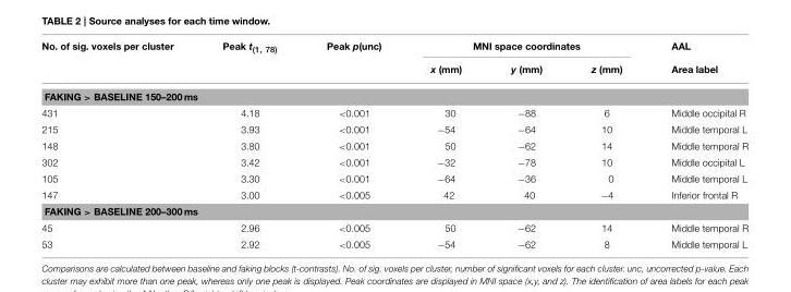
<table><thead><tr><td rowspan="2">No. of sig. voxels per cluster</td><td rowspan="2">Peak t<sub>(1, 78)</sub></td><td rowspan="2">Peak p(unc)</td><td colspan="3">MNI space coordinates</td><td rowspan="2">AAL Area label</td></tr><tr><td>x (mm)</td><td>y (mm)</td><td>z (mm)</td></tr></thead><tbody><tr><td colspan="7">FAKING &gt; BASELINE 150–200 ms</td></tr><tr><td>431</td><td>4.18</td><td>&lt;0.001</td><td>30</td><td>−88</td><td>6</td><td>Middle occipital R</td></tr><tr><td>215</td><td>3.93</td><td>&lt;0.001</td><td>−54</td><td>−64</td><td>10</td><td>Middle temporal L</td></tr><tr><td>148</td><td>3.80</td><td>&lt;0.001</td><td>50</td><td>−62</td><td>14</td><td>Middle temporal R</td></tr><tr><td>302</td><td>3.42</td><td>&lt;0.001</td><td>−32</td><td>−78</td><td>10</td><td>Middle occipital L</td></tr><tr><td>105</td><td>3.30</td><td>&lt;0.001</td><td>−64</td><td>−36</td><td>0</td><td>Middle temporal L</td></tr><tr><td>147</td><td>3.00</td><td>&lt;0.005</td><td>42</td><td>40</td><td>−4</td><td>Inferior frontal R</td></tr><tr><td colspan="7">FAKING &gt; BASELINE 200–300 ms</td></tr><tr><td>45</td><td>2.96</td><td>&lt;0.005</td><td>50</td><td>−62</td><td>14</td><td>Middle temporal R</td></tr><tr><td>53</td><td>2.92</td><td>&lt;0.005</td><td>−54</td><td>−62</td><td>8</td><td>Middle temporal L</td></tr></tbody></table>